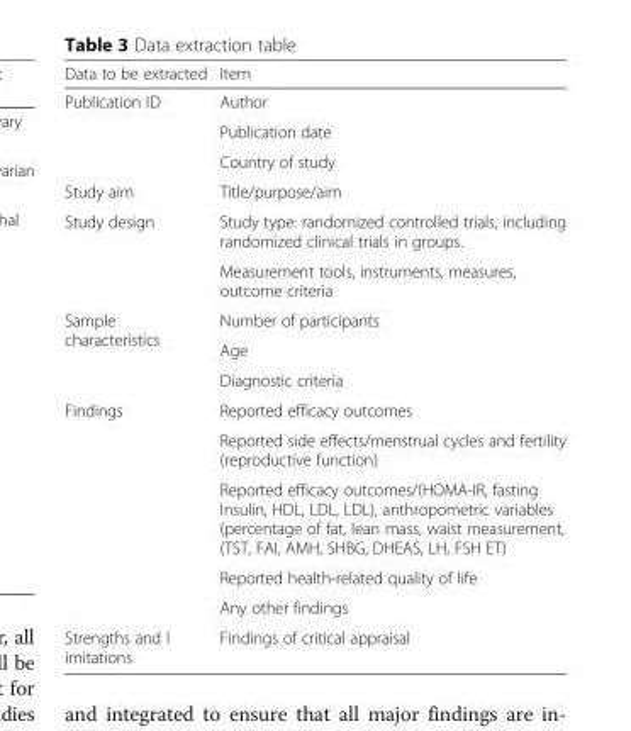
<table><thead><tr><td>Data to be extracted</td><td>Item</td></tr></thead><tbody><tr><td rowspan="3">Publication ID</td><td>Author</td></tr><tr><td>Publication date</td></tr><tr><td>Country of study</td></tr><tr><td>Study aim</td><td>Title/purpose/aim</td></tr><tr><td rowspan="2">Study design</td><td>Study type: randomized controlled trials, including randomized clinical trials in groups.</td></tr><tr><td>Measurement tools, instruments, measures, outcome criteria</td></tr><tr><td rowspan="3">Sample characteristics</td><td>Number of participants</td></tr><tr><td>Age</td></tr><tr><td>Diagnostic criteria</td></tr><tr><td rowspan="5">Findings</td><td>Reported efficacy outcomes</td></tr><tr><td>Reported side effects/menstrual cycles and fertility (reproductive function)</td></tr><tr><td>Reported efficacy outcomes/(HOMA-IR, fasting Insulin, HDL, LDL, LDL), anthropometric variables (percentage of fat, lean mass, waist measurement, (TST, FAI, AMH, SHBG, DHEAS, LH, FSH ET)</td></tr><tr><td>Reported health-related quality of life</td></tr><tr><td>Any other findings</td></tr><tr><td>Strengths and l imitations</td><td>Findings of critical appraisal</td></tr></tbody></table>